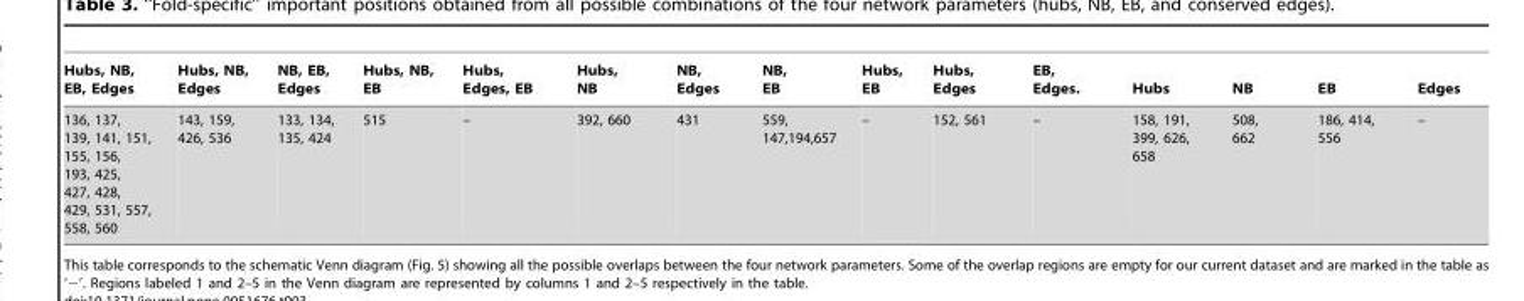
<table><thead><tr><td>Hubs, NB, EB, Edges</td><td>Hubs, NB, Edges</td><td>NB, EB, Edges</td><td>Hubs, NB, EB</td><td>Hubs, Edges, EB</td><td>Hubs, NB</td><td>NB, Edges</td><td>NB, EB</td><td>Hubs, EB</td><td>Hubs, Edges</td><td>EB, Edges.</td><td>Hubs</td><td>NB</td><td>EB</td><td>Edges</td></tr></thead><tbody><tr><td>136, 137, 139, 141, 151, 155, 156, 193, 425, 427, 428, 429, 531, 557, 558, 560</td><td>143, 159, 426, 536</td><td>133, 134, 135, 424</td><td>515</td><td>–</td><td>392, 660</td><td>431</td><td>559, 147,194,657</td><td>–</td><td>152, 561</td><td>–</td><td>158, 191, 399, 626, 658</td><td>508, 662</td><td>186, 414, 556</td><td>–</td></tr></tbody></table>